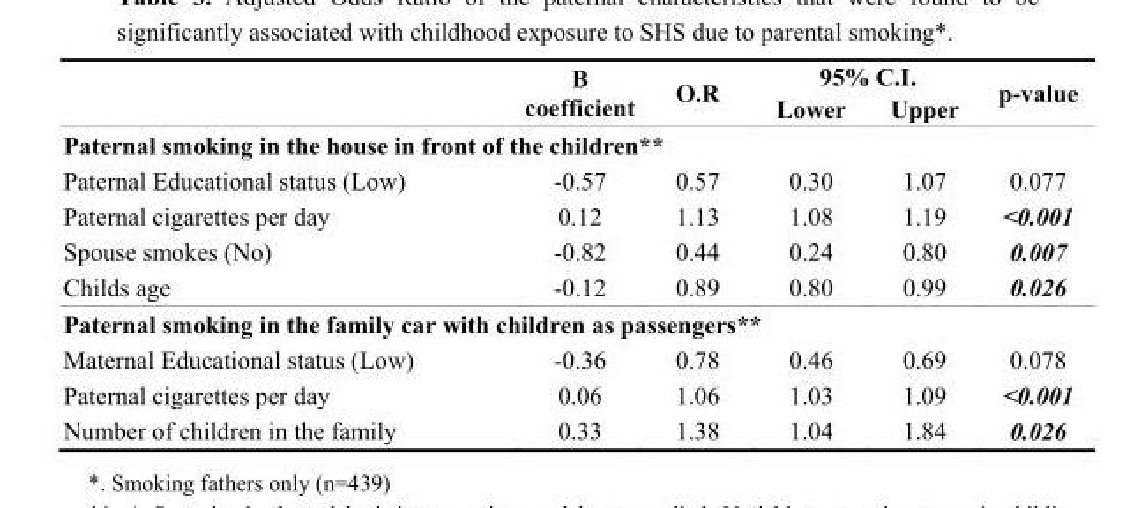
<table><thead><tr><td rowspan="2"></td><td rowspan="2">B coefficient</td><td rowspan="2">O.R</td><td colspan="2">95% C.I.</td><td rowspan="2">p-value</td></tr><tr><td>Lower</td><td>Upper</td></tr></thead><tbody><tr><td colspan="6">Paternal smoking in the house in front of the children**</td></tr><tr><td>Paternal Educational status (Low)</td><td>-0.57</td><td>0.57</td><td>0.30</td><td>1.07</td><td>0.077</td></tr><tr><td>Paternal cigarettes per day</td><td>0.12</td><td>1.13</td><td>1.08</td><td>1.19</td><td>&lt;0.001</td></tr><tr><td>Spouse smokes (No)</td><td>-0.82</td><td>0.44</td><td>0.24</td><td>0.80</td><td>0.007</td></tr><tr><td>Childs age</td><td>-0.12</td><td>0.89</td><td>0.80</td><td>0.99</td><td>0.026</td></tr><tr><td colspan="6">Paternal smoking in the family car with children as passengers**</td></tr><tr><td>Maternal Educational status (Low)</td><td>-0.36</td><td>0.78</td><td>0.46</td><td>0.69</td><td>0.078</td></tr><tr><td>Paternal cigarettes per day</td><td>0.06</td><td>1.06</td><td>1.03</td><td>1.09</td><td>&lt;0.001</td></tr><tr><td>Number of children in the family</td><td>0.33</td><td>1.38</td><td>1.04</td><td>1.84</td><td>0.026</td></tr></tbody></table>